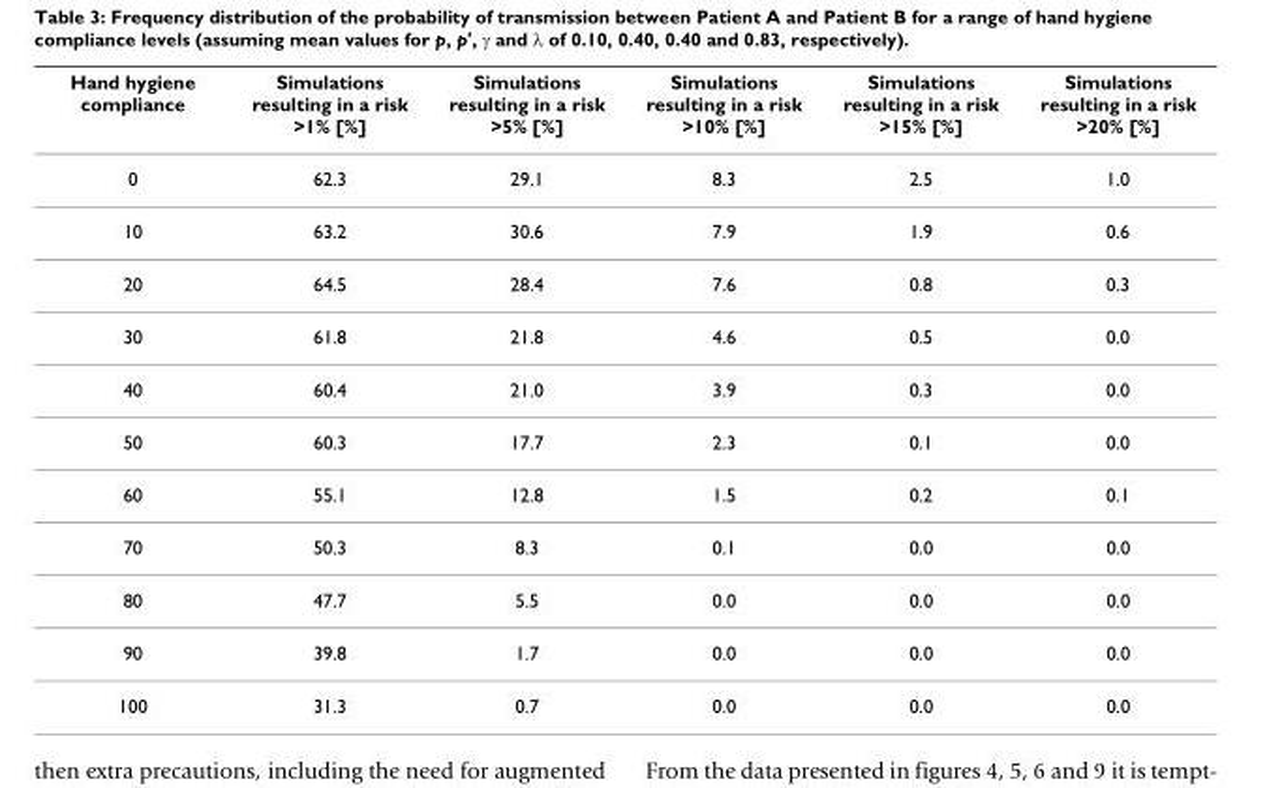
<table><thead><tr><td>Hand hygiene compliance</td><td>Simulations resulting in a risk &gt;1% [%]</td><td>Simulations resulting in a risk &gt;5% [%]</td><td>Simulations resulting in a risk &gt;10% [%]</td><td>Simulations resulting in a risk &gt;15% [%]</td><td>Simulations resulting in a risk &gt;20% [%]</td></tr></thead><tbody><tr><td>0</td><td>62.3</td><td>29.1</td><td>8.3</td><td>2.5</td><td>1.0</td></tr><tr><td>10</td><td>63.2</td><td>30.6</td><td>7.9</td><td>1.9</td><td>0.6</td></tr><tr><td>20</td><td>64.5</td><td>28.4</td><td>7.6</td><td>0.8</td><td>0.3</td></tr><tr><td>30</td><td>61.8</td><td>21.8</td><td>4.6</td><td>0.5</td><td>0.0</td></tr><tr><td>40</td><td>60.4</td><td>21.0</td><td>3.9</td><td>0.3</td><td>0.0</td></tr><tr><td>50</td><td>60.3</td><td>17.7</td><td>2.3</td><td>0.1</td><td>0.0</td></tr><tr><td>60</td><td>55.1</td><td>12.8</td><td>1.5</td><td>0.2</td><td>0.1</td></tr><tr><td>70</td><td>50.3</td><td>8.3</td><td>0.1</td><td>0.0</td><td>0.0</td></tr><tr><td>80</td><td>47.7</td><td>5.5</td><td>0.0</td><td>0.0</td><td>0.0</td></tr><tr><td>90</td><td>39.8</td><td>1.7</td><td>0.0</td><td>0.0</td><td>0.0</td></tr><tr><td>100</td><td>31.3</td><td>0.7</td><td>0.0</td><td>0.0</td><td>0.0</td></tr></tbody></table>